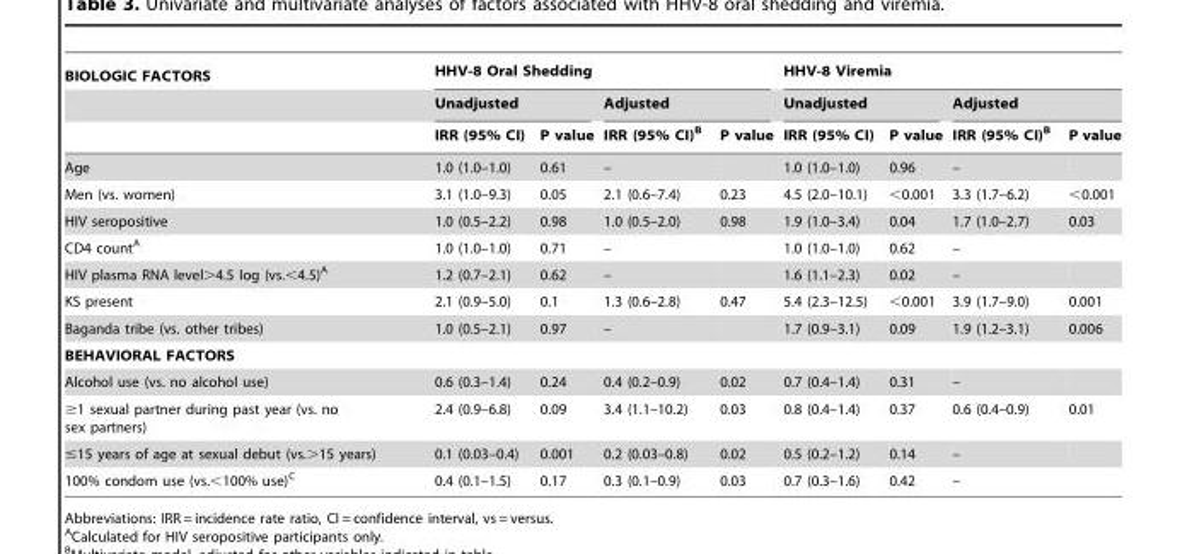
<table><thead><tr><td rowspan="3">BIOLOGIC FACTORS</td><td colspan="4">HHV-8 Oral Shedding</td><td colspan="4">HHV-8 Viremia</td></tr><tr><td colspan="2">Unadjusted</td><td colspan="2">Adjusted</td><td colspan="2">Unadjusted</td><td colspan="2">Adjusted</td></tr><tr><td>IRR (95% CI)</td><td>P value</td><td>IRR (95% CI)<sup>B</sup></td><td>P value</td><td>IRR (95% CI)</td><td>P value</td><td>IRR (95% CI)<sup>B</sup></td><td>P value</td></tr></thead><tbody><tr><td>Age</td><td>1.0 (1.0–1.0)</td><td>0.61</td><td>–</td><td></td><td>1.0 (1.0–1.0)</td><td>0.96</td><td>–</td><td></td></tr><tr><td>Men (vs. women)</td><td>3.1 (1.0–9.3)</td><td>0.05</td><td>2.1 (0.6–7.4)</td><td>0.23</td><td>4.5 (2.0–10.1)</td><td>&lt;0.001</td><td>3.3 (1.7–6.2)</td><td>&lt;0.001</td></tr><tr><td>HIV seropositive</td><td>1.0 (0.5–2.2)</td><td>0.98</td><td>1.0 (0.5–2.0)</td><td>0.98</td><td>1.9 (1.0–3.4)</td><td>0.04</td><td>1.7 (1.0–2.7)</td><td>0.03</td></tr><tr><td>CD4 count<sup>A</sup></td><td>1.0 (1.0–1.0)</td><td>0.71</td><td>–</td><td></td><td>1.0 (1.0–1.0)</td><td>0.62</td><td>–</td><td></td></tr><tr><td>HIV plasma RNA level&gt;4.5 log (vs.&lt;4.5)<sup>A</sup></td><td>1.2 (0.7–2.1)</td><td>0.62</td><td>–</td><td></td><td>1.6 (1.1–2.3)</td><td>0.02</td><td>–</td><td></td></tr><tr><td>KS present</td><td>2.1 (0.9–5.0)</td><td>0.1</td><td>1.3 (0.6–2.8)</td><td>0.47</td><td>5.4 (2.3–12.5)</td><td>&lt;0.001</td><td>3.9 (1.7–9.0)</td><td>0.001</td></tr><tr><td>Baganda tribe (vs. other tribes)</td><td>1.0 (0.5–2.1)</td><td>0.97</td><td>–</td><td></td><td>1.7 (0.9–3.1)</td><td>0.09</td><td>1.9 (1.2–3.1)</td><td>0.006</td></tr><tr><td colspan="9">BEHAVIORAL FACTORS</td></tr><tr><td>Alcohol use (vs. no alcohol use)</td><td>0.6 (0.3–1.4)</td><td>0.24</td><td>0.4 (0.2–0.9)</td><td>0.02</td><td>0.7 (0.4–1.4)</td><td>0.31</td><td>–</td><td></td></tr><tr><td>≥1 sexual partner during past year (vs. no sex partners)</td><td>2.4 (0.9–6.8)</td><td>0.09</td><td>3.4 (1.1–10.2)</td><td>0.03</td><td>0.8 (0.4–1.4)</td><td>0.37</td><td>0.6 (0.4–0.9)</td><td>0.01</td></tr><tr><td>≤15 years of age at sexual debut (vs.&gt;15 years)</td><td>0.1 (0.03–0.4)</td><td>0.001</td><td>0.2 (0.03–0.8)</td><td>0.02</td><td>0.5 (0.2–1.2)</td><td>0.14</td><td>–</td><td></td></tr><tr><td>100% condom use (vs.&lt;100% use)<sup>C</sup></td><td>0.4 (0.1–1.5)</td><td>0.17</td><td>0.3 (0.1–0.9)</td><td>0.03</td><td>0.7 (0.3–1.6)</td><td>0.42</td><td>–</td><td></td></tr></tbody></table>